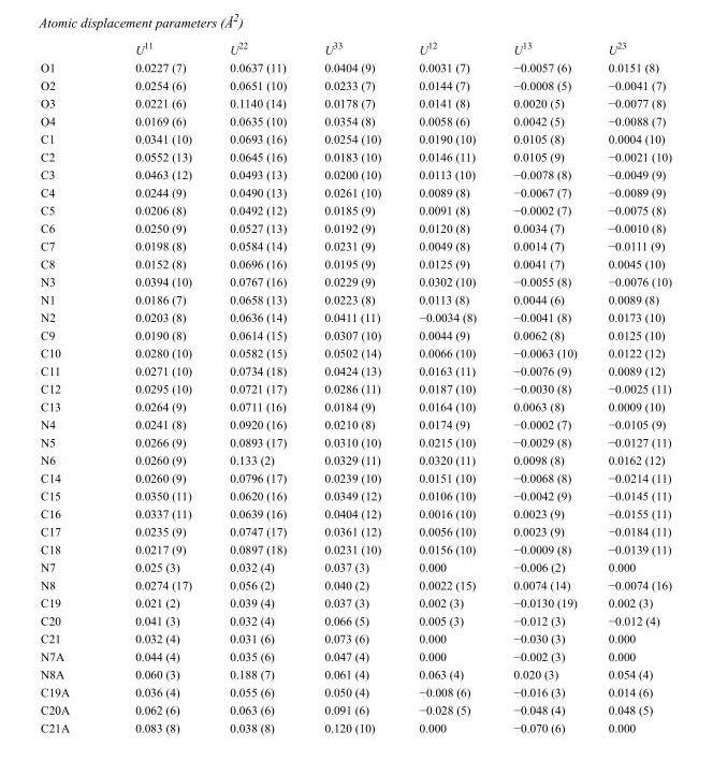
<table><thead><tr><td></td><td>U<sup>11</sup></td><td>U<sup>22</sup></td><td>U<sup>33</sup></td><td>U<sup>12</sup></td><td>U<sup>13</sup></td><td>U<sup>23</sup></td></tr></thead><tbody><tr><td>O1</td><td>0.0227 (7)</td><td>0.0637 (11)</td><td>0.0404 (9)</td><td>0.0031 (7)</td><td>−0.0057 (6)</td><td>0.0151 (8)</td></tr><tr><td>O2</td><td>0.0254 (6)</td><td>0.0651 (10)</td><td>0.0233 (7)</td><td>0.0144 (7)</td><td>−0.0008 (5)</td><td>−0.0041 (7)</td></tr><tr><td>O3</td><td>0.0221 (6)</td><td>0.1140 (14)</td><td>0.0178 (7)</td><td>0.0141 (8)</td><td>0.0020 (5)</td><td>−0.0077 (8)</td></tr><tr><td>O4</td><td>0.0169 (6)</td><td>0.0635 (10)</td><td>0.0354 (8)</td><td>0.0058 (6)</td><td>0.0042 (5)</td><td>−0.0088 (7)</td></tr><tr><td>C1</td><td>0.0341 (10)</td><td>0.0693 (16)</td><td>0.0254 (10)</td><td>0.0190 (10)</td><td>0.0105 (8)</td><td>0.0004 (10)</td></tr><tr><td>C2</td><td>0.0552 (13)</td><td>0.0645 (16)</td><td>0.0183 (10)</td><td>0.0146 (11)</td><td>0.0105 (9)</td><td>−0.0021 (10)</td></tr><tr><td>C3</td><td>0.0463 (12)</td><td>0.0493 (13)</td><td>0.0200 (10)</td><td>0.0113 (10)</td><td>−0.0078 (8)</td><td>−0.0049 (9)</td></tr><tr><td>C4</td><td>0.0244 (9)</td><td>0.0490 (13)</td><td>0.0261 (10)</td><td>0.0089 (8)</td><td>−0.0067 (7)</td><td>−0.0089 (9)</td></tr><tr><td>C5</td><td>0.0206 (8)</td><td>0.0492 (12)</td><td>0.0185 (9)</td><td>0.0091 (8)</td><td>−0.0002 (7)</td><td>−0.0075 (8)</td></tr><tr><td>C6</td><td>0.0250 (9)</td><td>0.0527 (13)</td><td>0.0192 (9)</td><td>0.0120 (8)</td><td>0.0034 (7)</td><td>−0.0010 (8)</td></tr><tr><td>C7</td><td>0.0198 (8)</td><td>0.0584 (14)</td><td>0.0231 (9)</td><td>0.0049 (8)</td><td>0.0014 (7)</td><td>−0.0111 (9)</td></tr><tr><td>C8</td><td>0.0152 (8)</td><td>0.0696 (16)</td><td>0.0195 (9)</td><td>0.0125 (9)</td><td>0.0041 (7)</td><td>0.0045 (10)</td></tr><tr><td>N3</td><td>0.0394 (10)</td><td>0.0767 (16)</td><td>0.0229 (9)</td><td>0.0302 (10)</td><td>−0.0055 (8)</td><td>−0.0076 (10)</td></tr><tr><td>N1</td><td>0.0186 (7)</td><td>0.0658 (13)</td><td>0.0223 (8)</td><td>0.0113 (8)</td><td>0.0044 (6)</td><td>0.0089 (8)</td></tr><tr><td>N2</td><td>0.0203 (8)</td><td>0.0636 (14)</td><td>0.0411 (11)</td><td>−0.0034 (8)</td><td>−0.0041 (8)</td><td>0.0173 (10)</td></tr><tr><td>C9</td><td>0.0190 (8)</td><td>0.0614 (15)</td><td>0.0307 (10)</td><td>0.0044 (9)</td><td>0.0062 (8)</td><td>0.0125 (10)</td></tr><tr><td>C10</td><td>0.0280 (10)</td><td>0.0582 (15)</td><td>0.0502 (14)</td><td>0.0066 (10)</td><td>−0.0063 (10)</td><td>0.0122 (12)</td></tr><tr><td>C11</td><td>0.0271 (10)</td><td>0.0734 (18)</td><td>0.0424 (13)</td><td>0.0163 (11)</td><td>−0.0076 (9)</td><td>0.0089 (12)</td></tr><tr><td>C12</td><td>0.0295 (10)</td><td>0.0721 (17)</td><td>0.0286 (11)</td><td>0.0187 (10)</td><td>−0.0030 (8)</td><td>−0.0025 (11)</td></tr><tr><td>C13</td><td>0.0264 (9)</td><td>0.0711 (16)</td><td>0.0184 (9)</td><td>0.0164 (10)</td><td>0.0063 (8)</td><td>0.0009 (10)</td></tr><tr><td>N4</td><td>0.0241 (8)</td><td>0.0920 (16)</td><td>0.0210 (8)</td><td>0.0174 (9)</td><td>−0.0002 (7)</td><td>−0.0105 (9)</td></tr><tr><td>N5</td><td>0.0266 (9)</td><td>0.0893 (17)</td><td>0.0310 (10)</td><td>0.0215 (10)</td><td>−0.0029 (8)</td><td>−0.0127 (11)</td></tr><tr><td>N6</td><td>0.0260 (9)</td><td>0.133 (2)</td><td>0.0329 (11)</td><td>0.0320 (11)</td><td>0.0098 (8)</td><td>0.0162 (12)</td></tr><tr><td>C14</td><td>0.0260 (9)</td><td>0.0796 (17)</td><td>0.0239 (10)</td><td>0.0151 (10)</td><td>−0.0068 (8)</td><td>−0.0214 (11)</td></tr><tr><td>C15</td><td>0.0350 (11)</td><td>0.0620 (16)</td><td>0.0349 (12)</td><td>0.0106 (10)</td><td>−0.0042 (9)</td><td>−0.0145 (11)</td></tr><tr><td>C16</td><td>0.0337 (11)</td><td>0.0639 (16)</td><td>0.0404 (12)</td><td>0.0016 (10)</td><td>0.0023 (9)</td><td>−0.0155 (11)</td></tr><tr><td>C17</td><td>0.0235 (9)</td><td>0.0747 (17)</td><td>0.0361 (12)</td><td>0.0056 (10)</td><td>0.0023 (9)</td><td>−0.0184 (11)</td></tr><tr><td>C18</td><td>0.0217 (9)</td><td>0.0897 (18)</td><td>0.0231 (10)</td><td>0.0156 (10)</td><td>−0.0009 (8)</td><td>−0.0139 (11)</td></tr><tr><td>N7</td><td>0.025 (3)</td><td>0.032 (4)</td><td>0.037 (3)</td><td>0.000</td><td>−0.006 (2)</td><td>0.000</td></tr><tr><td>N8</td><td>0.0274 (17)</td><td>0.056 (2)</td><td>0.040 (2)</td><td>0.0022 (15)</td><td>0.0074 (14)</td><td>−0.0074 (16)</td></tr><tr><td>C19</td><td>0.021 (2)</td><td>0.039 (4)</td><td>0.037 (3)</td><td>0.002 (3)</td><td>−0.0130 (19)</td><td>0.002 (3)</td></tr><tr><td>C20</td><td>0.041 (3)</td><td>0.032 (4)</td><td>0.066 (5)</td><td>0.005 (3)</td><td>−0.012 (3)</td><td>−0.012 (4)</td></tr><tr><td>C21</td><td>0.032 (4)</td><td>0.031 (6)</td><td>0.073 (6)</td><td>0.000</td><td>−0.030 (3)</td><td>0.000</td></tr><tr><td>N7A</td><td>0.044 (4)</td><td>0.035 (6)</td><td>0.047 (4)</td><td>0.000</td><td>−0.002 (3)</td><td>0.000</td></tr><tr><td>N8A</td><td>0.060 (3)</td><td>0.188 (7)</td><td>0.061 (4)</td><td>0.063 (4)</td><td>0.020 (3)</td><td>0.054 (4)</td></tr><tr><td>C19A</td><td>0.036 (4)</td><td>0.055 (6)</td><td>0.050 (4)</td><td>−0.008 (6)</td><td>−0.016 (3)</td><td>0.014 (6)</td></tr><tr><td>C20A</td><td>0.062 (6)</td><td>0.063 (6)</td><td>0.091 (6)</td><td>−0.028 (5)</td><td>−0.048 (4)</td><td>0.048 (5)</td></tr><tr><td>C21A</td><td>0.083 (8)</td><td>0.038 (8)</td><td>0.120 (10)</td><td>0.000</td><td>−0.070 (6)</td><td>0.000</td></tr></tbody></table>